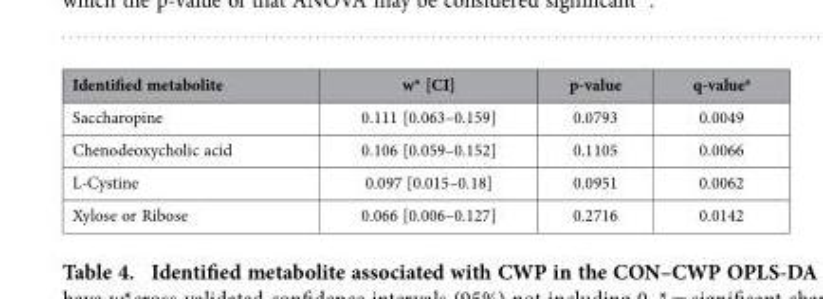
<table><thead><tr><td>Identified metabolite</td><td>w* [CI]</td><td>p-value</td><td>q-value<sup>a</sup></td></tr></thead><tbody><tr><td>Saccharopine</td><td>0.111 [0.063–0.159]</td><td>0.0793</td><td>0.0049</td></tr><tr><td>Chenodeoxycholic acid</td><td>0.106 [0.059–0.152]</td><td>0.1105</td><td>0.0066</td></tr><tr><td>L-Cystine</td><td>0.097 [0.015–0.18]</td><td>0.0951</td><td>0.0062</td></tr><tr><td>Xylose or Ribose</td><td>0.066 [0.006–0.127]</td><td>0.2716</td><td>0.0142</td></tr></tbody></table>